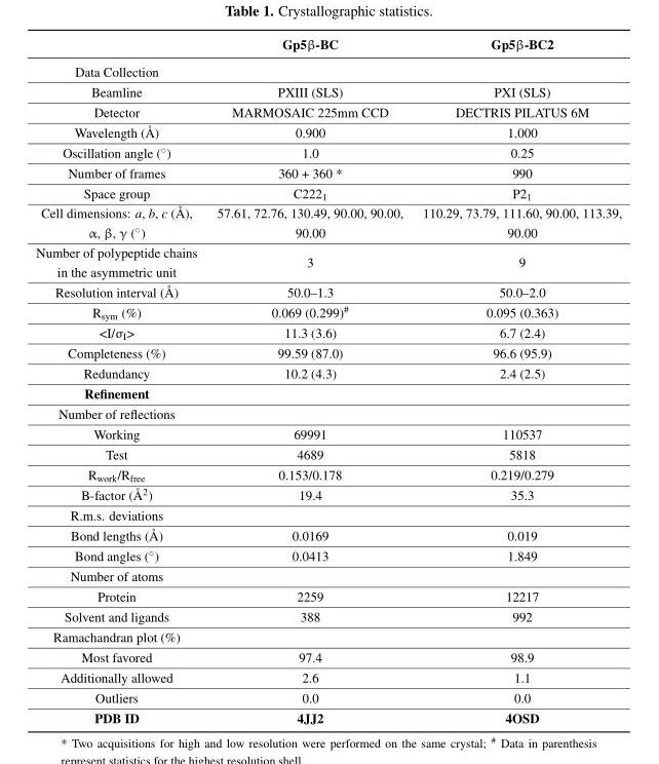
<table><thead><tr><td></td><td>Gp5β-BC</td><td>Gp5β-BC2</td></tr></thead><tbody><tr><td colspan="3">Data Collection</td></tr><tr><td>Beamline</td><td>PXIII (SLS)</td><td>PXI (SLS)</td></tr><tr><td>Detector</td><td>MARMOSAIC 225mm CCD</td><td>DECTRIS PILATUS 6M</td></tr><tr><td>Wavelength (Å)</td><td>0.900</td><td>1.000</td></tr><tr><td>Oscillation angle (˝)</td><td>1.0</td><td>0.25</td></tr><tr><td>Number of frames</td><td>360 + 360 *</td><td>990</td></tr><tr><td>Space group</td><td>C222<sub>1</sub></td><td>P2<sub>1</sub></td></tr><tr><td>Cell dimensions: a, b, c (Å), α, β, γ (˝)</td><td>57.61, 72.76, 130.49, 90.00, 90.00, 90.00</td><td>110.29, 73.79, 111.60, 90.00, 113.39, 90.00</td></tr><tr><td>Number of polypeptide chains in the asymmetric unit</td><td>3</td><td>9</td></tr><tr><td>Resolution interval (Å)</td><td>50.0–1.3</td><td>50.0–2.0</td></tr><tr><td>R<sub>sym</sub> (%)</td><td>0.069 (0.299)<sup>#</sup></td><td>0.095 (0.363)</td></tr><tr><td>&lt;I/σ<sub>I</sub>&gt;</td><td>11.3 (3.6)</td><td>6.7 (2.4)</td></tr><tr><td>Completeness (%)</td><td>99.59 (87.0)</td><td>96.6 (95.9)</td></tr><tr><td>Redundancy</td><td>10.2 (4.3)</td><td>2.4 (2.5)</td></tr><tr><td colspan="3">Refinement</td></tr><tr><td colspan="3">Number of reflections</td></tr><tr><td>Working</td><td>69991</td><td>110537</td></tr><tr><td>Test</td><td>4689</td><td>5818</td></tr><tr><td>R<sub>work</sub>/R<sub>free</sub></td><td>0.153/0.178</td><td>0.219/0.279</td></tr><tr><td>B-factor (Å<sup>2</sup>)</td><td>19.4</td><td>35.3</td></tr><tr><td colspan="3">R.m.s. deviations</td></tr><tr><td>Bond lengths (Å)</td><td>0.0169</td><td>0.019</td></tr><tr><td>Bond angles (˝)</td><td>0.0413</td><td>1.849</td></tr><tr><td colspan="3">Number of atoms</td></tr><tr><td>Protein</td><td>2259</td><td>12217</td></tr><tr><td>Solvent and ligands</td><td>388</td><td>992</td></tr><tr><td colspan="3">Ramachandran plot (%)</td></tr><tr><td>Most favored</td><td>97.4</td><td>98.9</td></tr><tr><td>Additionally allowed</td><td>2.6</td><td>1.1</td></tr><tr><td>Outliers</td><td>0.0</td><td>0.0</td></tr><tr><td>PDB ID</td><td>4JJ2</td><td>4OSD</td></tr></tbody></table>